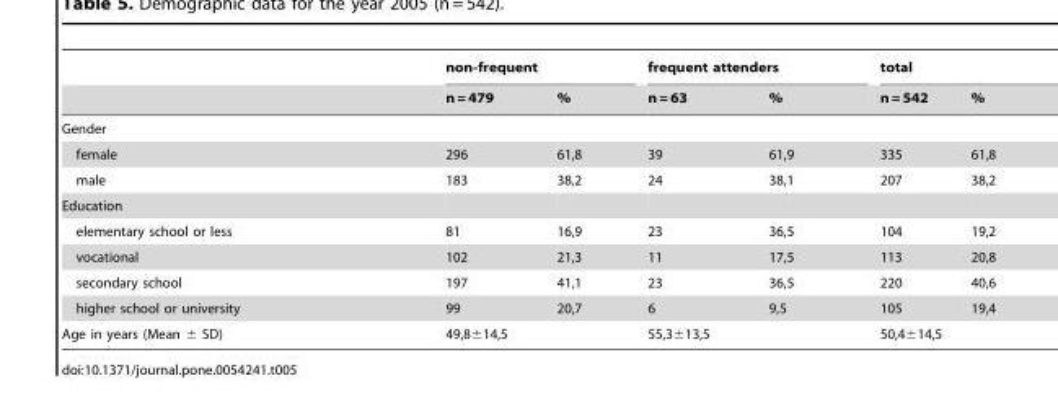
<table><thead><tr><td rowspan="2"></td><td colspan="2">non-frequent</td><td colspan="2">frequent attenders</td><td colspan="2">total</td></tr><tr><td>n = 479</td><td>%</td><td>n = 63</td><td>%</td><td>n = 542</td><td>%</td></tr></thead><tbody><tr><td colspan="7">Gender</td></tr><tr><td>female</td><td>296</td><td>61,8</td><td>39</td><td>61,9</td><td>335</td><td>61,8</td></tr><tr><td>male</td><td>183</td><td>38,2</td><td>24</td><td>38,1</td><td>207</td><td>38,2</td></tr><tr><td colspan="7">Education</td></tr><tr><td>elementary school or less</td><td>81</td><td>16,9</td><td>23</td><td>36,5</td><td>104</td><td>19,2</td></tr><tr><td>vocational</td><td>102</td><td>21,3</td><td>11</td><td>17,5</td><td>113</td><td>20,8</td></tr><tr><td>secondary school</td><td>197</td><td>41,1</td><td>23</td><td>36,5</td><td>220</td><td>40,6</td></tr><tr><td>higher school or university</td><td>99</td><td>20,7</td><td>6</td><td>9,5</td><td>105</td><td>19,4</td></tr><tr><td>Age in years (Mean ± SD)</td><td colspan="2">49,8±14,5</td><td colspan="2">55,3±13,5</td><td colspan="2">50,4±14,5</td></tr></tbody></table>